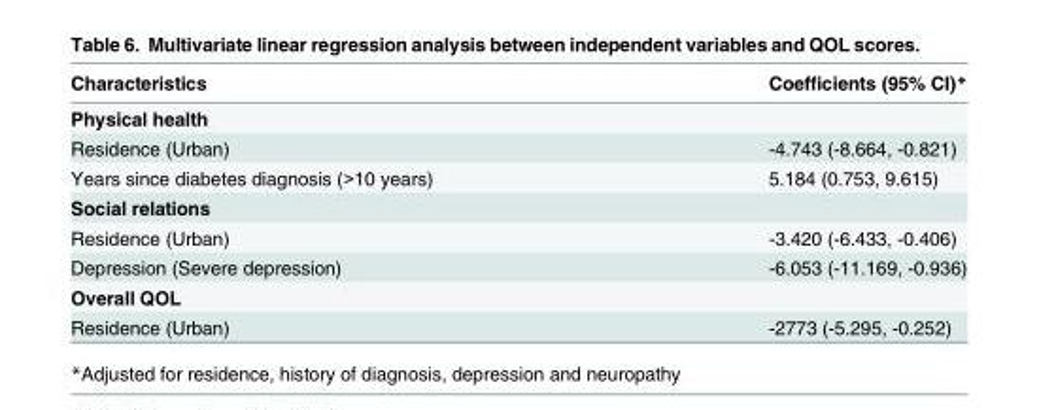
<table><thead><tr><td>Characteristics</td><td>Coefficients (95% CI)*</td></tr></thead><tbody><tr><td colspan="2">Physical health</td></tr><tr><td>Residence (Urban)</td><td>-4.743 (-8.664, -0.821)</td></tr><tr><td>Years since diabetes diagnosis (&gt;10 years)</td><td>5.184 (0.753, 9.615)</td></tr><tr><td colspan="2">Social relations</td></tr><tr><td>Residence (Urban)</td><td>-3.420 (-6.433, -0.406)</td></tr><tr><td>Depression (Severe depression)</td><td>-6.053 (-11.169, -0.936)</td></tr><tr><td colspan="2">Overall QOL</td></tr><tr><td>Residence (Urban)</td><td>-2773 (-5.295, -0.252)</td></tr></tbody></table>